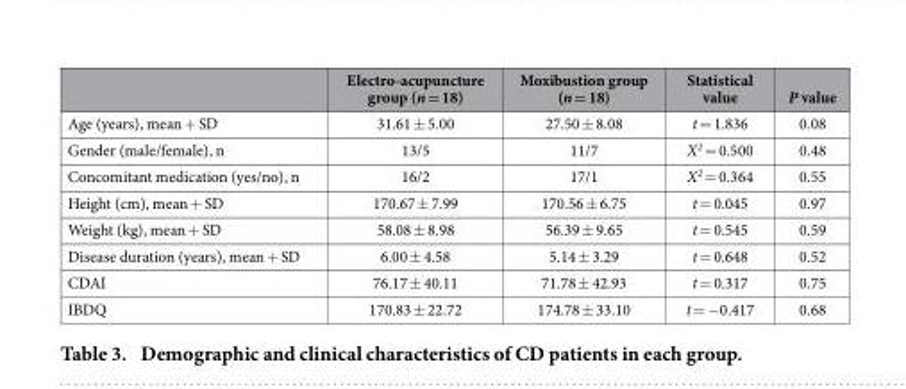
<table><thead><tr><td></td><td>Electro-acupuncture group (n = 18)</td><td>Moxibustion group (n = 18)</td><td>Statistical value</td><td>P value</td></tr></thead><tbody><tr><td>Age (years), mean + SD</td><td>31.61 ± 5.00</td><td>27.50 ± 8.08</td><td>t = 1.836</td><td>0.08</td></tr><tr><td>Gender (male/female), n</td><td>13/5</td><td>11/7</td><td>X<sup>2</sup> = 0.500</td><td>0.48</td></tr><tr><td>Concomitant medication (yes/no), n</td><td>16/2</td><td>17/1</td><td>X<sup>2</sup> = 0.364</td><td>0.55</td></tr><tr><td>Height (cm), mean + SD</td><td>170.67 ± 7.99</td><td>170.56 ± 6.75</td><td>t = 0.045</td><td>0.97</td></tr><tr><td>Weight (kg), mean + SD</td><td>58.08 ± 8.98</td><td>56.39 ± 9.65</td><td>t = 0.545</td><td>0.59</td></tr><tr><td>Disease duration (years), mean + SD</td><td>6.00 ± 4.58</td><td>5.14 ± 3.29</td><td>t = 0.648</td><td>0.52</td></tr><tr><td>CDAI</td><td>76.17 ± 40.11</td><td>71.78 ± 42.93</td><td>t = 0.317</td><td>0.75</td></tr><tr><td>IBDQ</td><td>170.83 ± 22.72</td><td>174.78 ± 33.10</td><td>t = − 0.417</td><td>0.68</td></tr></tbody></table>